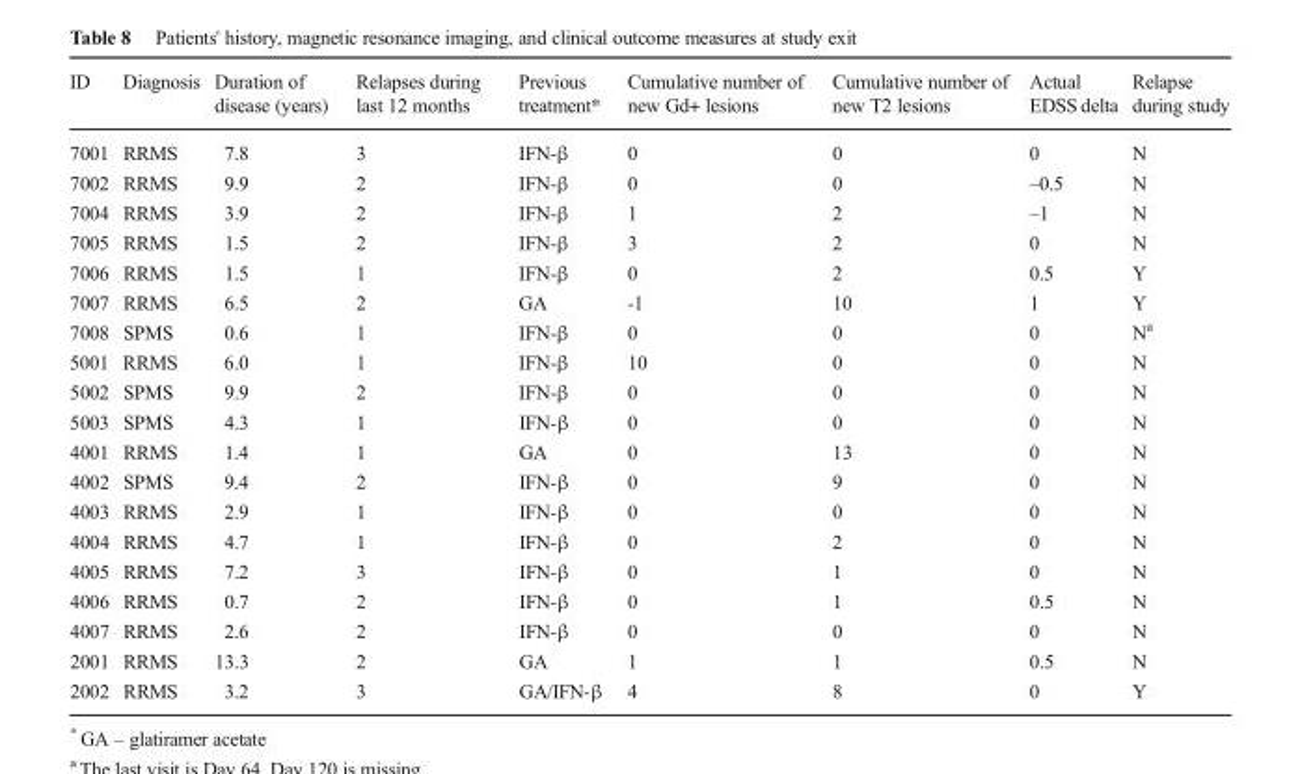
<table><thead><tr><td>ID</td><td>Diagnosis</td><td>Duration of disease (years)</td><td>Relapses during last 12 months</td><td>Previous treatment*</td><td>Cumulative number of new Gd+ lesions</td><td>Cumulative number of new T2 lesions</td><td>Actual EDSS delta</td><td>Relapse during study</td></tr></thead><tbody><tr><td>7001</td><td>RRMS</td><td>7.8</td><td>3</td><td>IFN-β</td><td>0</td><td>0</td><td>0</td><td>N</td></tr><tr><td>7002</td><td>RRMS</td><td>9.9</td><td>2</td><td>IFN-β</td><td>0</td><td>0</td><td>–0.5</td><td>N</td></tr><tr><td>7004</td><td>RRMS</td><td>3.9</td><td>2</td><td>IFN-β</td><td>1</td><td>2</td><td>–1</td><td>N</td></tr><tr><td>7005</td><td>RRMS</td><td>1.5</td><td>2</td><td>IFN-β</td><td>3</td><td>2</td><td>0</td><td>N</td></tr><tr><td>7006</td><td>RRMS</td><td>1.5</td><td>1</td><td>IFN-β</td><td>0</td><td>2</td><td>0.5</td><td>Y</td></tr><tr><td>7007</td><td>RRMS</td><td>6.5</td><td>2</td><td>GA</td><td>-1</td><td>10</td><td>1</td><td>Y</td></tr><tr><td>7008</td><td>SPMS</td><td>0.6</td><td>1</td><td>IFN-β</td><td>0</td><td>0</td><td>0</td><td>N<sup>a</sup></td></tr><tr><td>5001</td><td>RRMS</td><td>6.0</td><td>1</td><td>IFN-β</td><td>10</td><td>0</td><td>0</td><td>N</td></tr><tr><td>5002</td><td>SPMS</td><td>9.9</td><td>2</td><td>IFN-β</td><td>0</td><td>0</td><td>0</td><td>N</td></tr><tr><td>5003</td><td>SPMS</td><td>4.3</td><td>1</td><td>IFN-β</td><td>0</td><td>0</td><td>0</td><td>N</td></tr><tr><td>4001</td><td>RRMS</td><td>1.4</td><td>1</td><td>GA</td><td>0</td><td>13</td><td>0</td><td>N</td></tr><tr><td>4002</td><td>SPMS</td><td>9.4</td><td>2</td><td>IFN-β</td><td>0</td><td>9</td><td>0</td><td>N</td></tr><tr><td>4003</td><td>RRMS</td><td>2.9</td><td>1</td><td>IFN-β</td><td>0</td><td>0</td><td>0</td><td>N</td></tr><tr><td>4004</td><td>RRMS</td><td>4.7</td><td>1</td><td>IFN-β</td><td>0</td><td>2</td><td>0</td><td>N</td></tr><tr><td>4005</td><td>RRMS</td><td>7.2</td><td>3</td><td>IFN-β</td><td>0</td><td>1</td><td>0</td><td>N</td></tr><tr><td>4006</td><td>RRMS</td><td>0.7</td><td>2</td><td>IFN-β</td><td>0</td><td>1</td><td>0.5</td><td>N</td></tr><tr><td>4007</td><td>RRMS</td><td>2.6</td><td>2</td><td>IFN-β</td><td>0</td><td>0</td><td>0</td><td>N</td></tr><tr><td>2001</td><td>RRMS</td><td>13.3</td><td>2</td><td>GA</td><td>1</td><td>1</td><td>0.5</td><td>N</td></tr><tr><td>2002</td><td>RRMS</td><td>3.2</td><td>3</td><td>GA/IFN-β</td><td>4</td><td>8</td><td>0</td><td>Y</td></tr></tbody></table>